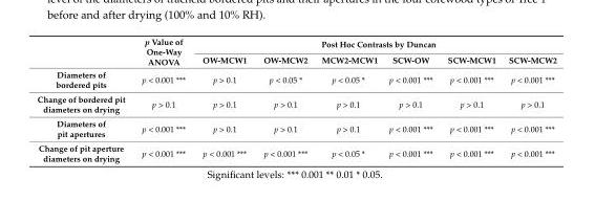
<table><thead><tr><td rowspan="2"></td><td rowspan="2">p Value of One-Way ANOVA</td><td colspan="6">Post Hoc Contrasts by Duncan</td></tr><tr><td>OW-MCW1</td><td>OW-MCW2</td><td>MCW2-MCW1</td><td>SCW-OW</td><td>SCW-MCW1</td><td>SCW-MCW2</td></tr></thead><tbody><tr><td>Diameters of bordered pits</td><td>p &lt; 0.001 ***</td><td>p &gt; 0.1</td><td>p &lt; 0.05 *</td><td>p &lt; 0.05 *</td><td>p &lt; 0.001 ***</td><td>p &lt; 0.001 ***</td><td>p &lt; 0.001 ***</td></tr><tr><td>Change of bordered pit diameters on drying</td><td>p &gt; 0.1</td><td>p &gt; 0.1</td><td>p &gt; 0.1</td><td>p &gt; 0.1</td><td>p &gt; 0.1</td><td>p &gt; 0.1</td><td>p &gt; 0.1</td></tr><tr><td>Diameters of pit apertures</td><td>p &lt; 0.001 ***</td><td>p &gt; 0.1</td><td>p &gt; 0.1</td><td>p &gt; 0.1</td><td>p &lt; 0.001 ***</td><td>p &lt; 0.001 ***</td><td>p &lt; 0.001 ***</td></tr><tr><td>Change of pit aperture diameters on drying</td><td>p &lt; 0.001 ***</td><td>p &lt; 0.001 ***</td><td>p &lt; 0.001 ***</td><td>p &lt; 0.05 *</td><td>p &lt; 0.001 ***</td><td>p &lt; 0.001 ***</td><td>p &lt; 0.001 ***</td></tr></tbody></table>